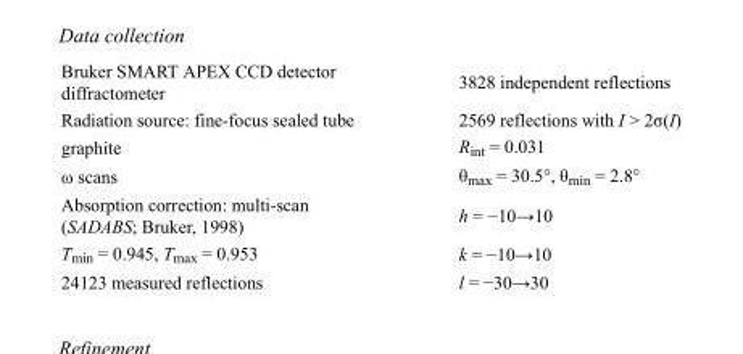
<table><tbody><tr><td>Bruker SMART APEX CCD detector diffractometer</td><td>3828 independent reflections</td></tr><tr><td>Radiation source: fine-focus sealed tube</td><td>2569 reflections with I &gt; 2σ(I)</td></tr><tr><td>graphite</td><td>R<sub>int</sub> = 0.031</td></tr><tr><td>ω scans</td><td>θ<sub>max</sub> = 30.5°, θ<sub>min</sub> = 2.8°</td></tr><tr><td>Absorption correction: multi-scan (SADABS; Bruker, 1998)</td><td>h = −10→10</td></tr><tr><td>T<sub>min</sub> = 0.945, T<sub>max</sub> = 0.953</td><td>k = −10→10</td></tr><tr><td>24123 measured reflections</td><td>l = −30→30</td></tr></tbody></table>